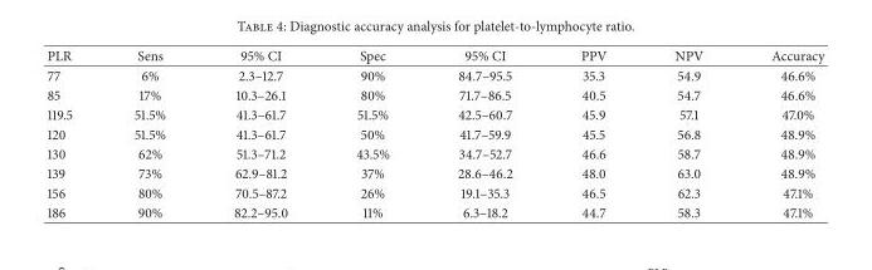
<table><thead><tr><td>PLR</td><td>Sens</td><td>95% CI</td><td>Spec</td><td>95% CI</td><td>PPV</td><td>NPV</td><td>Accuracy</td></tr></thead><tbody><tr><td>77</td><td>6%</td><td>2.3–12.7</td><td>90%</td><td>84.7–95.5</td><td>35.3</td><td>54.9</td><td>46.6%</td></tr><tr><td>85</td><td>17%</td><td>10.3–26.1</td><td>80%</td><td>71.7–86.5</td><td>40.5</td><td>54.7</td><td>46.6%</td></tr><tr><td>119.5</td><td>51.5%</td><td>41.3–61.7</td><td>51.5%</td><td>42.5–60.7</td><td>45.9</td><td>57.1</td><td>47.0%</td></tr><tr><td>120</td><td>51.5%</td><td>41.3–61.7</td><td>50%</td><td>41.7–59.9</td><td>45.5</td><td>56.8</td><td>48.9%</td></tr><tr><td>130</td><td>62%</td><td>51.3–71.2</td><td>43.5%</td><td>34.7–52.7</td><td>46.6</td><td>58.7</td><td>48.9%</td></tr><tr><td>139</td><td>73%</td><td>62.9–81.2</td><td>37%</td><td>28.6–46.2</td><td>48.0</td><td>63.0</td><td>48.9%</td></tr><tr><td>156</td><td>80%</td><td>70.5–87.2</td><td>26%</td><td>19.1–35.3</td><td>46.5</td><td>62.3</td><td>47.1%</td></tr><tr><td>186</td><td>90%</td><td>82.2–95.0</td><td>11%</td><td>6.3–18.2</td><td>44.7</td><td>58.3</td><td>47.1%</td></tr></tbody></table>